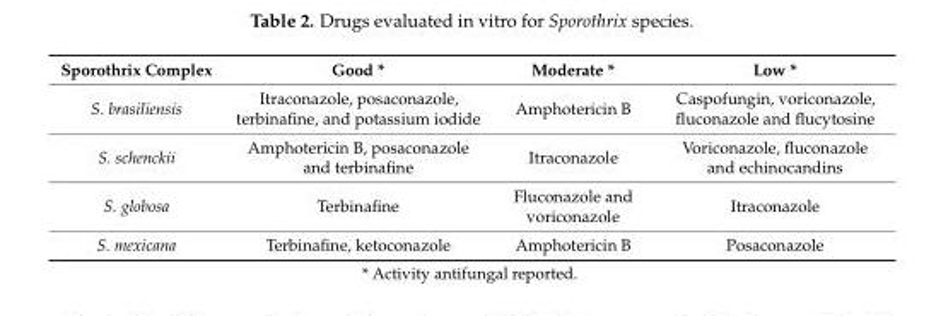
<table><thead><tr><td>Sporothrix Complex</td><td>Good *</td><td>Moderate *</td><td>Low *</td></tr></thead><tbody><tr><td>S. brasiliensis</td><td>Itraconazole, posaconazole, terbinafine, and potassium iodide</td><td>Amphotericin B</td><td>Caspofungin, voriconazole, fluconazole and flucytosine</td></tr><tr><td>S. schenckii</td><td>Amphotericin B, posaconazole and terbinafine</td><td>Itraconazole</td><td>Voriconazole, fluconazole and echinocandins</td></tr><tr><td>S. globosa</td><td>Terbinafine</td><td>Fluconazole and voriconazole</td><td>Itraconazole</td></tr><tr><td>S. mexicana</td><td>Terbinafine, ketoconazole</td><td>Amphotericin B</td><td>Posaconazole</td></tr></tbody></table>